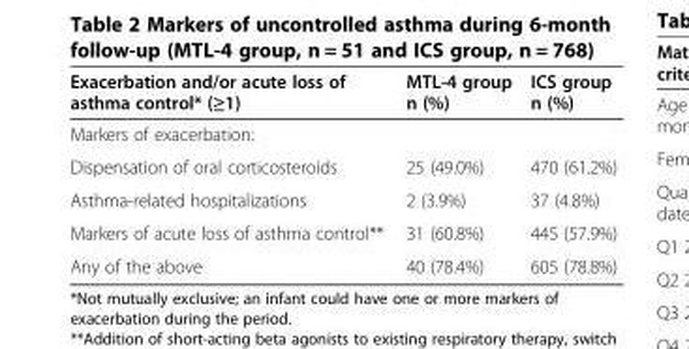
<table><thead><tr><td>Exacerbation and/or acute loss of asthma control* (≥1)</td><td>MTL-4 group n (%)</td><td>ICS group n (%)</td></tr></thead><tbody><tr><td colspan="3">Markers of exacerbation:</td></tr><tr><td>Dispensation of oral corticosteroids</td><td>25 (49.0%)</td><td>470 (61.2%)</td></tr><tr><td>Asthma-related hospitalizations</td><td>2 (3.9%)</td><td>37 (4.8%)</td></tr><tr><td>Markers of acute loss of asthma control**</td><td>31 (60.8%)</td><td>445 (57.9%)</td></tr><tr><td>Any of the above</td><td>40 (78.4%)</td><td>605 (78.8%)</td></tr></tbody></table>